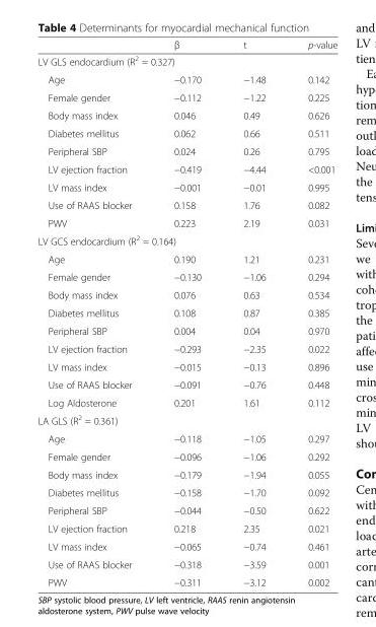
<table><thead><tr><td></td><td>β</td><td>t</td><td>p-value</td></tr></thead><tbody><tr><td colspan="4">LV GLS endocardium (R<sup>2</sup> = 0.327)</td></tr><tr><td>Age</td><td>−0.170</td><td>−1.48</td><td>0.142</td></tr><tr><td>Female gender</td><td>−0.112</td><td>−1.22</td><td>0.225</td></tr><tr><td>Body mass index</td><td>0.046</td><td>0.49</td><td>0.626</td></tr><tr><td>Diabetes mellitus</td><td>0.062</td><td>0.66</td><td>0.511</td></tr><tr><td>Peripheral SBP</td><td>0.024</td><td>0.26</td><td>0.795</td></tr><tr><td>LV ejection fraction</td><td>−0.419</td><td>−4.44</td><td>&lt;0.001</td></tr><tr><td>LV mass index</td><td>−0.001</td><td>−0.01</td><td>0.995</td></tr><tr><td>Use of RAAS blocker</td><td>0.158</td><td>1.76</td><td>0.082</td></tr><tr><td>PWV</td><td>0.223</td><td>2.19</td><td>0.031</td></tr><tr><td colspan="4">LV GCS endocardium (R<sup>2</sup> = 0.164)</td></tr><tr><td>Age</td><td>0.190</td><td>1.21</td><td>0.231</td></tr><tr><td>Female gender</td><td>−0.130</td><td>−1.06</td><td>0.294</td></tr><tr><td>Body mass index</td><td>0.076</td><td>0.63</td><td>0.534</td></tr><tr><td>Diabetes mellitus</td><td>0.108</td><td>0.87</td><td>0.385</td></tr><tr><td>Peripheral SBP</td><td>0.004</td><td>0.04</td><td>0.970</td></tr><tr><td>LV ejection fraction</td><td>−0.293</td><td>−2.35</td><td>0.022</td></tr><tr><td>LV mass index</td><td>−0.015</td><td>−0.13</td><td>0.896</td></tr><tr><td>Use of RAAS blocker</td><td>−0.091</td><td>−0.76</td><td>0.448</td></tr><tr><td>Log Aldosterone</td><td>0.201</td><td>1.61</td><td>0.112</td></tr><tr><td colspan="4">LA GLS (R<sup>2</sup> = 0.361)</td></tr><tr><td>Age</td><td>−0.118</td><td>−1.05</td><td>0.297</td></tr><tr><td>Female gender</td><td>−0.096</td><td>−1.06</td><td>0.292</td></tr><tr><td>Body mass index</td><td>−0.179</td><td>−1.94</td><td>0.055</td></tr><tr><td>Diabetes mellitus</td><td>−0.158</td><td>−1.70</td><td>0.092</td></tr><tr><td>Peripheral SBP</td><td>−0.044</td><td>−0.50</td><td>0.622</td></tr><tr><td>LV ejection fraction</td><td>0.218</td><td>2.35</td><td>0.021</td></tr><tr><td>LV mass index</td><td>−0.065</td><td>−0.74</td><td>0.461</td></tr><tr><td>Use of RAAS blocker</td><td>−0.318</td><td>−3.59</td><td>0.001</td></tr><tr><td>PWV</td><td>−0.311</td><td>−3.12</td><td>0.002</td></tr></tbody></table>